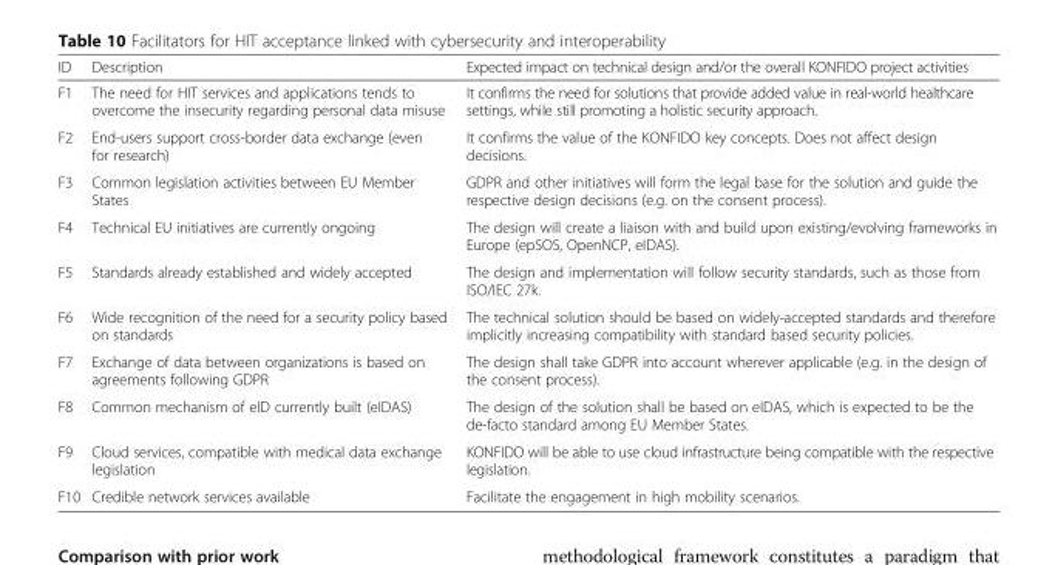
<table><thead><tr><td>ID</td><td>Description</td><td>Expected impact on technical design and/or the overall KONFIDO project activities</td></tr></thead><tbody><tr><td>F1</td><td>The need for HIT services and applications tends to overcome the insecurity regarding personal data misuse</td><td>It confirms the need for solutions that provide added value in real-world healthcare settings, while still promoting a holistic security approach.</td></tr><tr><td>F2</td><td>End-users support cross-border data exchange (even for research)</td><td>It confirms the value of the KONFIDO key concepts. Does not affect design decisions.</td></tr><tr><td>F3</td><td>Common legislation activities between EU Member States</td><td>GDPR and other initiatives will form the legal base for the solution and guide the respective design decisions (e.g. on the consent process).</td></tr><tr><td>F4</td><td>Technical EU initiatives are currently ongoing</td><td>The design will create a liaison with and build upon existing/evolving frameworks in Europe (epSOS, OpenNCP, eIDAS).</td></tr><tr><td>F5</td><td>Standards already established and widely accepted</td><td>The design and implementation will follow security standards, such as those from ISO/IEC 27k.</td></tr><tr><td>F6</td><td>Wide recognition of the need for a security policy based on standards</td><td>The technical solution should be based on widely-accepted standards and therefore implicitly increasing compatibility with standard based security policies.</td></tr><tr><td>F7</td><td>Exchange of data between organizations is based on agreements following GDPR</td><td>The design shall take GDPR into account wherever applicable (e.g. in the design of the consent process).</td></tr><tr><td>F8</td><td>Common mechanism of eID currently built (eIDAS)</td><td>The design of the solution shall be based on eIDAS, which is expected to be the de-facto standard among EU Member States.</td></tr><tr><td>F9</td><td>Cloud services, compatible with medical data exchange legislation</td><td>KONFIDO will be able to use cloud infrastructure being compatible with the respective legislation.</td></tr><tr><td>F10</td><td>Credible network services available</td><td>Facilitate the engagement in high mobility scenarios.</td></tr></tbody></table>